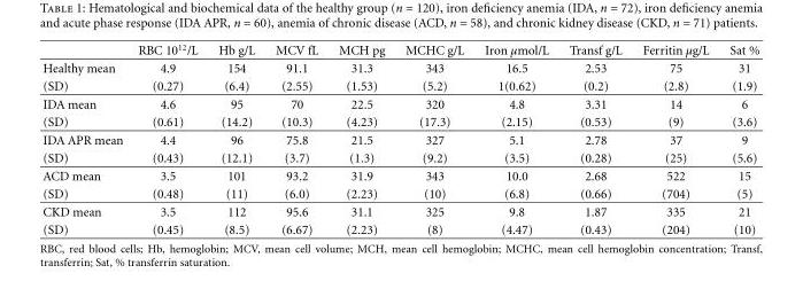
<table><thead><tr><td></td><td>RBC 10<sup>12</sup>/L</td><td>Hb g/L</td><td>MCV fL</td><td>MCH pg</td><td>MCHC g/L</td><td>Iron µmol/L</td><td>Transf g/L</td><td>Ferritin µg/L</td><td>Sat %</td></tr></thead><tbody><tr><td>Healthy mean</td><td>4.9</td><td>154</td><td>91.1</td><td>31.3</td><td>343</td><td>16.5</td><td>2.53</td><td>75</td><td>31</td></tr><tr><td>(SD)</td><td>(0.27)</td><td>(6.4)</td><td>(2.55)</td><td>(1.53)</td><td>(5.2)</td><td>1(0.62)</td><td>(0.2)</td><td>(2.8)</td><td>(1.9)</td></tr><tr><td>IDA mean</td><td>4.6</td><td>95</td><td>70</td><td>22.5</td><td>320</td><td>4.8</td><td>3.31</td><td>14</td><td>6</td></tr><tr><td>(SD)</td><td>(0.61)</td><td>(14.2)</td><td>(10.3)</td><td>(4.23)</td><td>(17.3)</td><td>(2.15)</td><td>(0.53)</td><td>(9)</td><td>(3.6)</td></tr><tr><td>IDA APR mean</td><td>4.4</td><td>96</td><td>75.8</td><td>21.5</td><td>327</td><td>5.1</td><td>2.78</td><td>37</td><td>9</td></tr><tr><td>(SD)</td><td>(0.43)</td><td>(12.1)</td><td>(3.7)</td><td>(1.3)</td><td>(9.2)</td><td>(3.5)</td><td>(0.28)</td><td>(25)</td><td>(5.6)</td></tr><tr><td>ACD mean</td><td>3.5</td><td>101</td><td>93.2</td><td>31.9</td><td>343</td><td>10.0</td><td>2.68</td><td>522</td><td>15</td></tr><tr><td>(SD)</td><td>(0.48)</td><td>(11)</td><td>(6.0)</td><td>(2.23)</td><td>(10)</td><td>(6.8)</td><td>(0.66)</td><td>(704)</td><td>(5)</td></tr><tr><td>CKD mean</td><td>3.5</td><td>112</td><td>95.6</td><td>31.1</td><td>325</td><td>9.8</td><td>1.87</td><td>335</td><td>21</td></tr><tr><td>(SD)</td><td>(0.45)</td><td>(8.5)</td><td>(6.67)</td><td>(2.23)</td><td>(8)</td><td>(4.47)</td><td>(0.43)</td><td>(204)</td><td>(10)</td></tr></tbody></table>